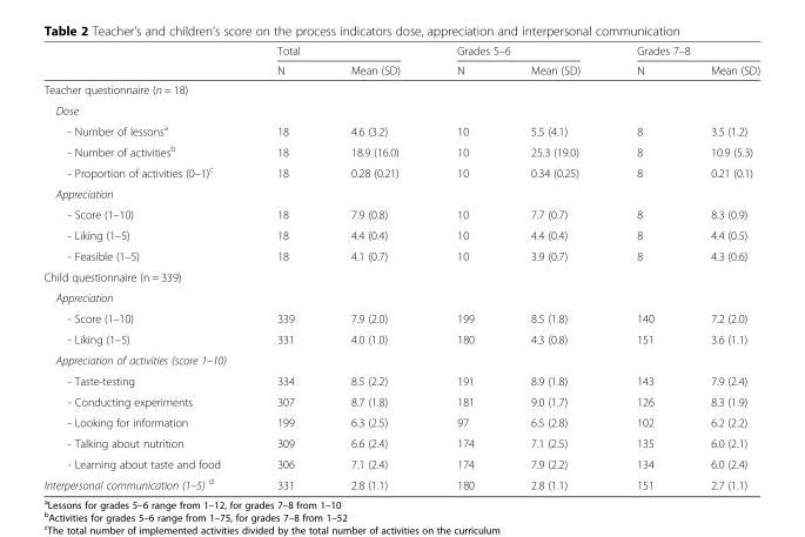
<table><thead><tr><td rowspan="2"></td><td colspan="2">Total</td><td colspan="2">Grades 5–6</td><td colspan="2">Grades 7–8</td></tr><tr><td>N</td><td>Mean (SD)</td><td>N</td><td>Mean (SD)</td><td>N</td><td>Mean (SD)</td></tr></thead><tbody><tr><td colspan="7">Teacher questionnaire (n = 18)</td></tr><tr><td colspan="7">Dose</td></tr><tr><td>- Number of lessons<sup>a</sup></td><td>18</td><td>4.6 (3.2)</td><td>10</td><td>5.5 (4.1)</td><td>8</td><td>3.5 (1.2)</td></tr><tr><td>- Number of activities<sup>b</sup></td><td>18</td><td>18.9 (16.0)</td><td>10</td><td>25.3 (19.0)</td><td>8</td><td>10.9 (5.3)</td></tr><tr><td>- Proportion of activities (0–1)<sup>c</sup></td><td>18</td><td>0.28 (0.21)</td><td>10</td><td>0.34 (0.25)</td><td>8</td><td>0.21 (0.1)</td></tr><tr><td colspan="7">Appreciation</td></tr><tr><td>- Score (1–10)</td><td>18</td><td>7.9 (0.8)</td><td>10</td><td>7.7 (0.7)</td><td>8</td><td>8.3 (0.9)</td></tr><tr><td>- Liking (1–5)</td><td>18</td><td>4.4 (0.4)</td><td>10</td><td>4.4 (0.4)</td><td>8</td><td>4.4 (0.5)</td></tr><tr><td>- Feasible (1–5)</td><td>18</td><td>4.1 (0.7)</td><td>10</td><td>3.9 (0.7)</td><td>8</td><td>4.3 (0.6)</td></tr><tr><td colspan="7">Child questionnaire (n = 339)</td></tr><tr><td colspan="7">Appreciation</td></tr><tr><td>- Score (1–10)</td><td>339</td><td>7.9 (2.0)</td><td>199</td><td>8.5 (1.8)</td><td>140</td><td>7.2 (2.0)</td></tr><tr><td>- Liking (1–5)</td><td>331</td><td>4.0 (1.0)</td><td>180</td><td>4.3 (0.8)</td><td>151</td><td>3.6 (1.1)</td></tr><tr><td colspan="7">Appreciation of activities (score 1–10)</td></tr><tr><td>- Taste-testing</td><td>334</td><td>8.5 (2.2)</td><td>191</td><td>8.9 (1.8)</td><td>143</td><td>7.9 (2.4)</td></tr><tr><td>- Conducting experiments</td><td>307</td><td>8.7 (1.8)</td><td>181</td><td>9.0 (1.7)</td><td>126</td><td>8.3 (1.9)</td></tr><tr><td>- Looking for information</td><td>199</td><td>6.3 (2.5)</td><td>97</td><td>6.5 (2.8)</td><td>102</td><td>6.2 (2.2)</td></tr><tr><td>- Talking about nutrition</td><td>309</td><td>6.6 (2.4)</td><td>174</td><td>7.1 (2.5)</td><td>135</td><td>6.0 (2.1)</td></tr><tr><td>- Learning about taste and food</td><td>306</td><td>7.1 (2.4)</td><td>174</td><td>7.9 (2.2)</td><td>134</td><td>6.0 (2.4)</td></tr><tr><td>Interpersonal communication (1–5) <sup>d</sup></td><td>331</td><td>2.8 (1.1)</td><td>180</td><td>2.8 (1.1)</td><td>151</td><td>2.7 (1.1)</td></tr></tbody></table>